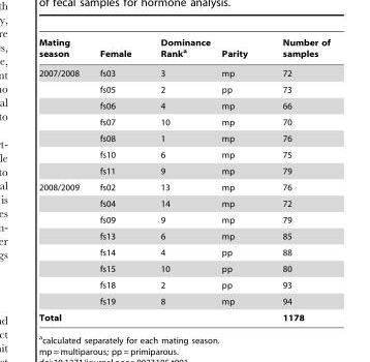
<table><thead><tr><td>Mating season</td><td>Female</td><td>Dominance Rank<sup>a</sup></td><td>Parity</td><td>Number of samples</td></tr></thead><tbody><tr><td rowspan="7">2007/2008</td><td>fs03</td><td>3</td><td>mp</td><td>72</td></tr><tr><td>fs05</td><td>2</td><td>pp</td><td>73</td></tr><tr><td>fs06</td><td>4</td><td>mp</td><td>66</td></tr><tr><td>fs07</td><td>10</td><td>mp</td><td>70</td></tr><tr><td>fs08</td><td>1</td><td>mp</td><td>76</td></tr><tr><td>fs10</td><td>6</td><td>mp</td><td>75</td></tr><tr><td>fs11</td><td>9</td><td>mp</td><td>79</td></tr><tr><td rowspan="8">2008/2009</td><td>fs02</td><td>13</td><td>mp</td><td>76</td></tr><tr><td>fs04</td><td>14</td><td>mp</td><td>72</td></tr><tr><td>fs09</td><td>9</td><td>mp</td><td>79</td></tr><tr><td>fs13</td><td>6</td><td>mp</td><td>85</td></tr><tr><td>fs14</td><td>4</td><td>pp</td><td>88</td></tr><tr><td>fs15</td><td>10</td><td>pp</td><td>80</td></tr><tr><td>fs18</td><td>2</td><td>pp</td><td>93</td></tr><tr><td>fs19</td><td>8</td><td>mp</td><td>94</td></tr><tr><td>Total</td><td></td><td></td><td></td><td>1178</td></tr></tbody></table>